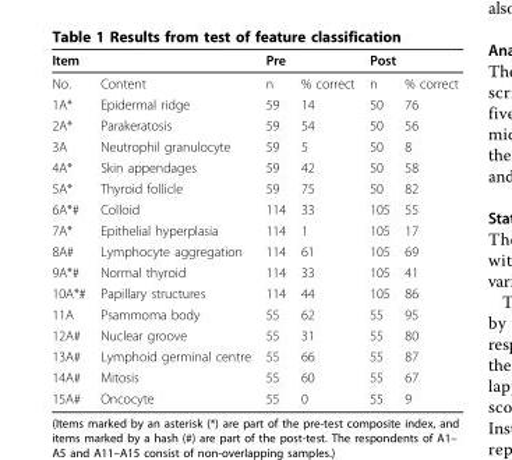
<table><thead><tr><td colspan="2">Item</td><td colspan="2">Pre</td><td colspan="2">Post</td></tr><tr><td>No.</td><td>Content</td><td>n</td><td>% correct</td><td>n</td><td>% correct</td></tr></thead><tbody><tr><td>1A*</td><td>Epidermal ridge</td><td>59</td><td>14</td><td>50</td><td>76</td></tr><tr><td>2A*</td><td>Parakeratosis</td><td>59</td><td>54</td><td>50</td><td>56</td></tr><tr><td>3A</td><td>Neutrophil granulocyte</td><td>59</td><td>5</td><td>50</td><td>8</td></tr><tr><td>4A*</td><td>Skin appendages</td><td>59</td><td>42</td><td>50</td><td>58</td></tr><tr><td>5A*</td><td>Thyroid follicle</td><td>59</td><td>75</td><td>50</td><td>82</td></tr><tr><td>6A*#</td><td>Colloid</td><td>114</td><td>33</td><td>105</td><td>55</td></tr><tr><td>7A*</td><td>Epithelial hyperplasia</td><td>114</td><td>1</td><td>105</td><td>17</td></tr><tr><td>8A#</td><td>Lymphocyte aggregation</td><td>114</td><td>61</td><td>105</td><td>69</td></tr><tr><td>9A*#</td><td>Normal thyroid</td><td>114</td><td>33</td><td>105</td><td>41</td></tr><tr><td>10A*#</td><td>Papillary structures</td><td>114</td><td>44</td><td>105</td><td>86</td></tr><tr><td>11A</td><td>Psammoma body</td><td>55</td><td>62</td><td>55</td><td>95</td></tr><tr><td>12A#</td><td>Nuclear groove</td><td>55</td><td>31</td><td>55</td><td>80</td></tr><tr><td>13A#</td><td>Lymphoid germinal centre</td><td>55</td><td>66</td><td>55</td><td>87</td></tr><tr><td>14A#</td><td>Mitosis</td><td>55</td><td>60</td><td>55</td><td>67</td></tr><tr><td>15A#</td><td>Oncocyte</td><td>55</td><td>0</td><td>55</td><td>9</td></tr></tbody></table>